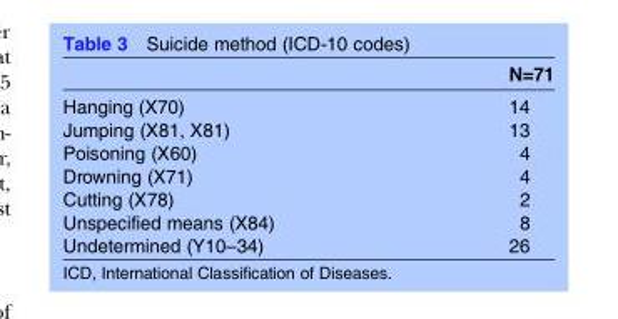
<table><thead><tr><td></td><td>N=71</td></tr></thead><tbody><tr><td>Hanging (X70)</td><td>14</td></tr><tr><td>Jumping (X81, X81)</td><td>13</td></tr><tr><td>Poisoning (X60)</td><td>4</td></tr><tr><td>Drowning (X71)</td><td>4</td></tr><tr><td>Cutting (X78)</td><td>2</td></tr><tr><td>Unspecified means (X84)</td><td>8</td></tr><tr><td>Undetermined (Y10–34)</td><td>26</td></tr></tbody></table>